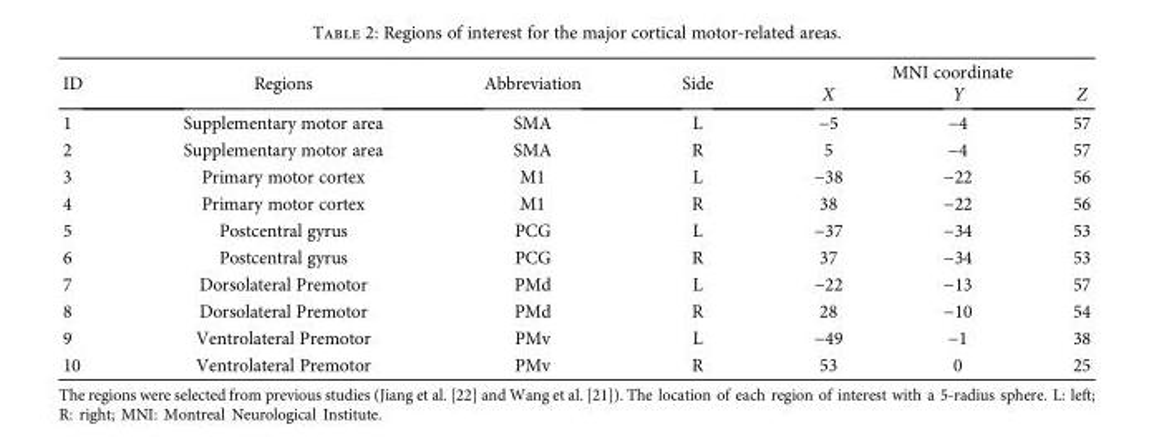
<table><thead><tr><td rowspan="2">ID</td><td rowspan="2">Regions</td><td rowspan="2">Abbreviation</td><td rowspan="2">Side</td><td colspan="3">MNI coordinate</td></tr><tr><td>X</td><td>Y</td><td>Z</td></tr></thead><tbody><tr><td>1</td><td>Supplementary motor area</td><td>SMA</td><td>L</td><td>−5</td><td>−4</td><td>57</td></tr><tr><td>2</td><td>Supplementary motor area</td><td>SMA</td><td>R</td><td>5</td><td>−4</td><td>57</td></tr><tr><td>3</td><td>Primary motor cortex</td><td>M1</td><td>L</td><td>−38</td><td>−22</td><td>56</td></tr><tr><td>4</td><td>Primary motor cortex</td><td>M1</td><td>R</td><td>38</td><td>−22</td><td>56</td></tr><tr><td>5</td><td>Postcentral gyrus</td><td>PCG</td><td>L</td><td>−37</td><td>−34</td><td>53</td></tr><tr><td>6</td><td>Postcentral gyrus</td><td>PCG</td><td>R</td><td>37</td><td>−34</td><td>53</td></tr><tr><td>7</td><td>Dorsolateral Premotor</td><td>PMd</td><td>L</td><td>−22</td><td>−13</td><td>57</td></tr><tr><td>8</td><td>Dorsolateral Premotor</td><td>PMd</td><td>R</td><td>28</td><td>−10</td><td>54</td></tr><tr><td>9</td><td>Ventrolateral Premotor</td><td>PMv</td><td>L</td><td>−49</td><td>−1</td><td>38</td></tr><tr><td>10</td><td>Ventrolateral Premotor</td><td>PMv</td><td>R</td><td>53</td><td>0</td><td>25</td></tr></tbody></table>